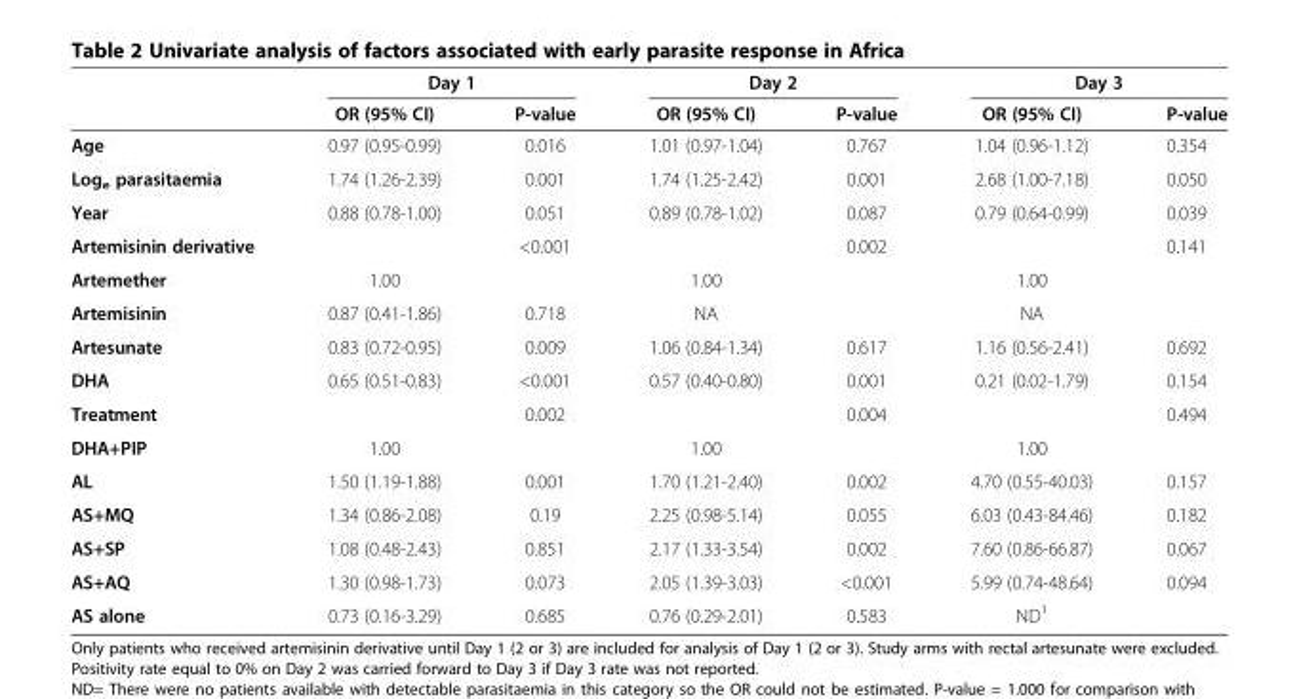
<table><thead><tr><td rowspan="2"></td><td colspan="2">Day 1</td><td colspan="2">Day 2</td><td colspan="2">Day 3</td></tr><tr><td>OR (95% CI)</td><td>P-value</td><td>OR (95% CI)</td><td>P-value</td><td>OR (95% CI)</td><td>P-value</td></tr></thead><tbody><tr><td>Age</td><td>0.97 (0.95-0.99)</td><td>0.016</td><td>1.01 (0.97-1.04)</td><td>0.767</td><td>1.04 (0.96-1.12)</td><td>0.354</td></tr><tr><td>Log<sub>e</sub> parasitaemia</td><td>1.74 (1.26-2.39)</td><td>0.001</td><td>1.74 (1.25-2.42)</td><td>0.001</td><td>2.68 (1.00-7.18)</td><td>0.050</td></tr><tr><td>Year</td><td>0.88 (0.78-1.00)</td><td>0.051</td><td>0.89 (0.78-1.02)</td><td>0.087</td><td>0.79 (0.64-0.99)</td><td>0.039</td></tr><tr><td>Artemisinin derivative</td><td></td><td>&lt;0.001</td><td></td><td>0.002</td><td></td><td>0.141</td></tr><tr><td>Artemether</td><td>1.00</td><td></td><td>1.00</td><td></td><td>1.00</td><td></td></tr><tr><td>Artemisinin</td><td>0.87 (0.41-1.86)</td><td>0.718</td><td>NA</td><td></td><td>NA</td><td></td></tr><tr><td>Artesunate</td><td>0.83 (0.72-0.95)</td><td>0.009</td><td>1.06 (0.84-1.34)</td><td>0.617</td><td>1.16 (0.56-2.41)</td><td>0.692</td></tr><tr><td>DHA</td><td>0.65 (0.51-0.83)</td><td>&lt;0.001</td><td>0.57 (0.40-0.80)</td><td>0.001</td><td>0.21 (0.02-1.79)</td><td>0.154</td></tr><tr><td>Treatment</td><td></td><td>0.002</td><td></td><td>0.004</td><td></td><td>0.494</td></tr><tr><td>DHA+PIP</td><td>1.00</td><td></td><td>1.00</td><td></td><td>1.00</td><td></td></tr><tr><td>AL</td><td>1.50 (1.19-1.88)</td><td>0.001</td><td>1.70 (1.21-2.40)</td><td>0.002</td><td>4.70 (0.55-40.03)</td><td>0.157</td></tr><tr><td>AS+MQ</td><td>1.34 (0.86-2.08)</td><td>0.19</td><td>2.25 (0.98-5.14)</td><td>0.055</td><td>6.03 (0.43-84.46)</td><td>0.182</td></tr><tr><td>AS+SP</td><td>1.08 (0.48-2.43)</td><td>0.851</td><td>2.17 (1.33-3.54)</td><td>0.002</td><td>7.60 (0.86-66.87)</td><td>0.067</td></tr><tr><td>AS+AQ</td><td>1.30 (0.98-1.73)</td><td>0.073</td><td>2.05 (1.39-3.03)</td><td>&lt;0.001</td><td>5.99 (0.74-48.64)</td><td>0.094</td></tr><tr><td>AS alone</td><td>0.73 (0.16-3.29)</td><td>0.685</td><td>0.76 (0.29-2.01)</td><td>0.583</td><td>ND<sup>1</sup></td><td></td></tr></tbody></table>